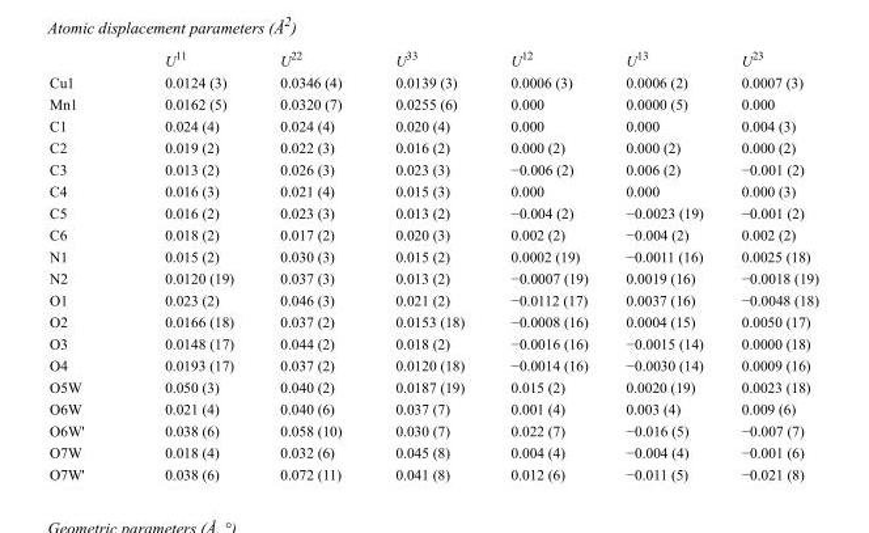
<table><thead><tr><td></td><td>U<sup>11</sup></td><td>U<sup>22</sup></td><td>U<sup>33</sup></td><td>U<sup>12</sup></td><td>U<sup>13</sup></td><td>U<sup>23</sup></td></tr></thead><tbody><tr><td>Cu1</td><td>0.0124 (3)</td><td>0.0346 (4)</td><td>0.0139 (3)</td><td>0.0006 (3)</td><td>0.0006 (2)</td><td>0.0007 (3)</td></tr><tr><td>Mn1</td><td>0.0162 (5)</td><td>0.0320 (7)</td><td>0.0255 (6)</td><td>0.000</td><td>0.0000 (5)</td><td>0.000</td></tr><tr><td>C1</td><td>0.024 (4)</td><td>0.024 (4)</td><td>0.020 (4)</td><td>0.000</td><td>0.000</td><td>0.004 (3)</td></tr><tr><td>C2</td><td>0.019 (2)</td><td>0.022 (3)</td><td>0.016 (2)</td><td>0.000 (2)</td><td>0.000 (2)</td><td>0.000 (2)</td></tr><tr><td>C3</td><td>0.013 (2)</td><td>0.026 (3)</td><td>0.023 (3)</td><td>−0.006 (2)</td><td>0.006 (2)</td><td>−0.001 (2)</td></tr><tr><td>C4</td><td>0.016 (3)</td><td>0.021 (4)</td><td>0.015 (3)</td><td>0.000</td><td>0.000</td><td>0.000 (3)</td></tr><tr><td>C5</td><td>0.016 (2)</td><td>0.023 (3)</td><td>0.013 (2)</td><td>−0.004 (2)</td><td>−0.0023 (19)</td><td>−0.001 (2)</td></tr><tr><td>C6</td><td>0.018 (2)</td><td>0.017 (2)</td><td>0.020 (3)</td><td>0.002 (2)</td><td>−0.004 (2)</td><td>0.002 (2)</td></tr><tr><td>N1</td><td>0.015 (2)</td><td>0.030 (3)</td><td>0.015 (2)</td><td>0.0002 (19)</td><td>−0.0011 (16)</td><td>0.0025 (18)</td></tr><tr><td>N2</td><td>0.0120 (19)</td><td>0.037 (3)</td><td>0.013 (2)</td><td>−0.0007 (19)</td><td>0.0019 (16)</td><td>−0.0018 (19)</td></tr><tr><td>O1</td><td>0.023 (2)</td><td>0.046 (3)</td><td>0.021 (2)</td><td>−0.0112 (17)</td><td>0.0037 (16)</td><td>−0.0048 (18)</td></tr><tr><td>O2</td><td>0.0166 (18)</td><td>0.037 (2)</td><td>0.0153 (18)</td><td>−0.0008 (16)</td><td>0.0004 (15)</td><td>0.0050 (17)</td></tr><tr><td>O3</td><td>0.0148 (17)</td><td>0.044 (2)</td><td>0.018 (2)</td><td>−0.0016 (16)</td><td>−0.0015 (14)</td><td>0.0000 (18)</td></tr><tr><td>O4</td><td>0.0193 (17)</td><td>0.037 (2)</td><td>0.0120 (18)</td><td>−0.0014 (16)</td><td>−0.0030 (14)</td><td>0.0009 (16)</td></tr><tr><td>O5W</td><td>0.050 (3)</td><td>0.040 (2)</td><td>0.0187 (19)</td><td>0.015 (2)</td><td>0.0020 (19)</td><td>0.0023 (18)</td></tr><tr><td>O6W</td><td>0.021 (4)</td><td>0.040 (6)</td><td>0.037 (7)</td><td>0.001 (4)</td><td>0.003 (4)</td><td>0.009 (6)</td></tr><tr><td>O6W&#x27;</td><td>0.038 (6)</td><td>0.058 (10)</td><td>0.030 (7)</td><td>0.022 (7)</td><td>−0.016 (5)</td><td>−0.007 (7)</td></tr><tr><td>O7W</td><td>0.018 (4)</td><td>0.032 (6)</td><td>0.045 (8)</td><td>0.004 (4)</td><td>−0.004 (4)</td><td>−0.001 (6)</td></tr><tr><td>O7W&#x27;</td><td>0.038 (6)</td><td>0.072 (11)</td><td>0.041 (8)</td><td>0.012 (6)</td><td>−0.011 (5)</td><td>−0.021 (8)</td></tr></tbody></table>